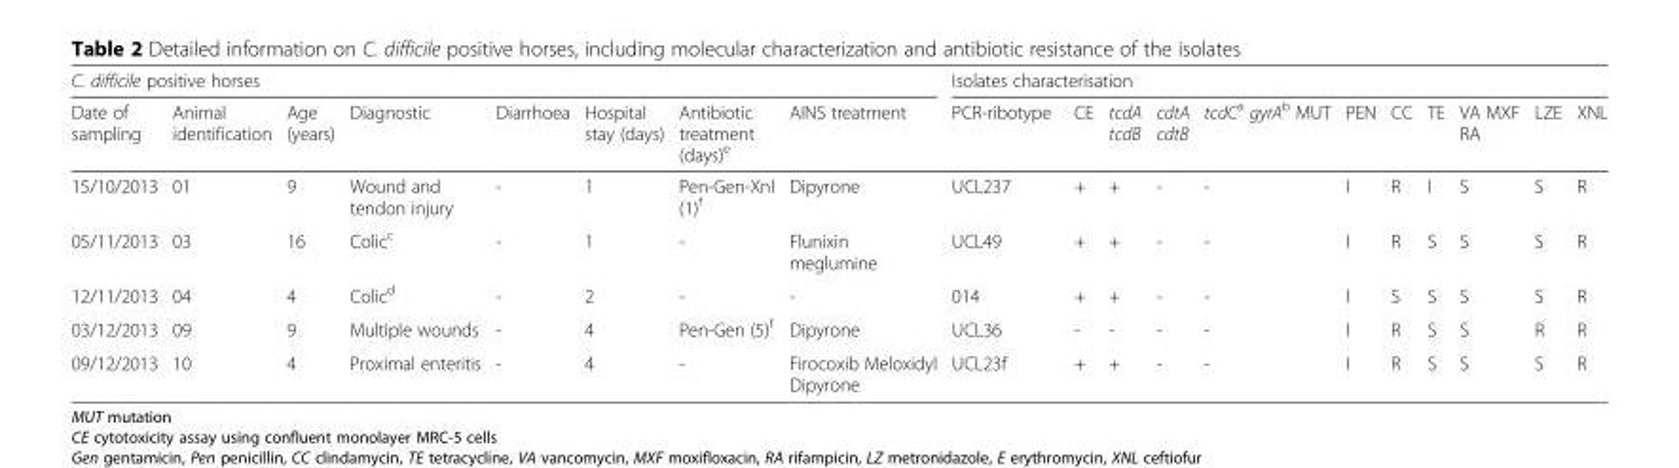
<table><thead><tr><td colspan="8">C. difficile positive horses</td><td colspan="11">Isolates characterisation</td></tr><tr><td>Date of sampling</td><td>Animal identification</td><td>Age (years)</td><td>Diagnostic</td><td>Diarrhoea</td><td>Hospital stay (days)</td><td>Antibiotic treatment (days)<sup>e</sup></td><td>AINS treatment</td><td>PCR-ribotype</td><td>CE</td><td>tcdA tcdB</td><td>cdtA cdtB</td><td>tcdC<sup>a</sup> gyrA<sup>b</sup> MUT</td><td>PEN</td><td>CC</td><td>TE</td><td>VA MXF RA</td><td>LZE</td><td>XNL</td></tr></thead><tbody><tr><td>15/10/2013</td><td>01</td><td>9</td><td>Wound and tendon injury</td><td>-</td><td>1</td><td>Pen-Gen-Xnl (1)<sup>f</sup></td><td>Dipyrone</td><td>UCL237</td><td>+</td><td>+</td><td>-</td><td>-</td><td>I</td><td>R</td><td>I</td><td>S</td><td>S</td><td>R</td></tr><tr><td>05/11/2013</td><td>03</td><td>16</td><td>Colic<sup>c</sup></td><td>-</td><td>1</td><td>-</td><td>Flunixin meglumine</td><td>UCL49</td><td>+</td><td>+</td><td>-</td><td>-</td><td>I</td><td>R</td><td>S</td><td>S</td><td>S</td><td>R</td></tr><tr><td>12/11/2013</td><td>04</td><td>4</td><td>Colic<sup>d</sup></td><td>-</td><td>2</td><td>-</td><td>-</td><td>014</td><td>+</td><td>+</td><td>-</td><td>-</td><td>I</td><td>S</td><td>S</td><td>S</td><td>S</td><td>R</td></tr><tr><td>03/12/2013</td><td>09</td><td>9</td><td>Multiple wounds</td><td>-</td><td>4</td><td>Pen-Gen (5)<sup>f</sup></td><td>Dipyrone</td><td>UCL36</td><td>-</td><td>-</td><td>-</td><td>-</td><td>I</td><td>R</td><td>S</td><td>S</td><td>R</td><td>R</td></tr><tr><td>09/12/2013</td><td>10</td><td>4</td><td>Proximal enteritis</td><td>-</td><td>4</td><td>-</td><td>Firocoxib Meloxidyl Dipyrone</td><td>UCL23f</td><td>+</td><td>+</td><td>-</td><td>-</td><td>I</td><td>R</td><td>S</td><td>S</td><td>S</td><td>R</td></tr></tbody></table>